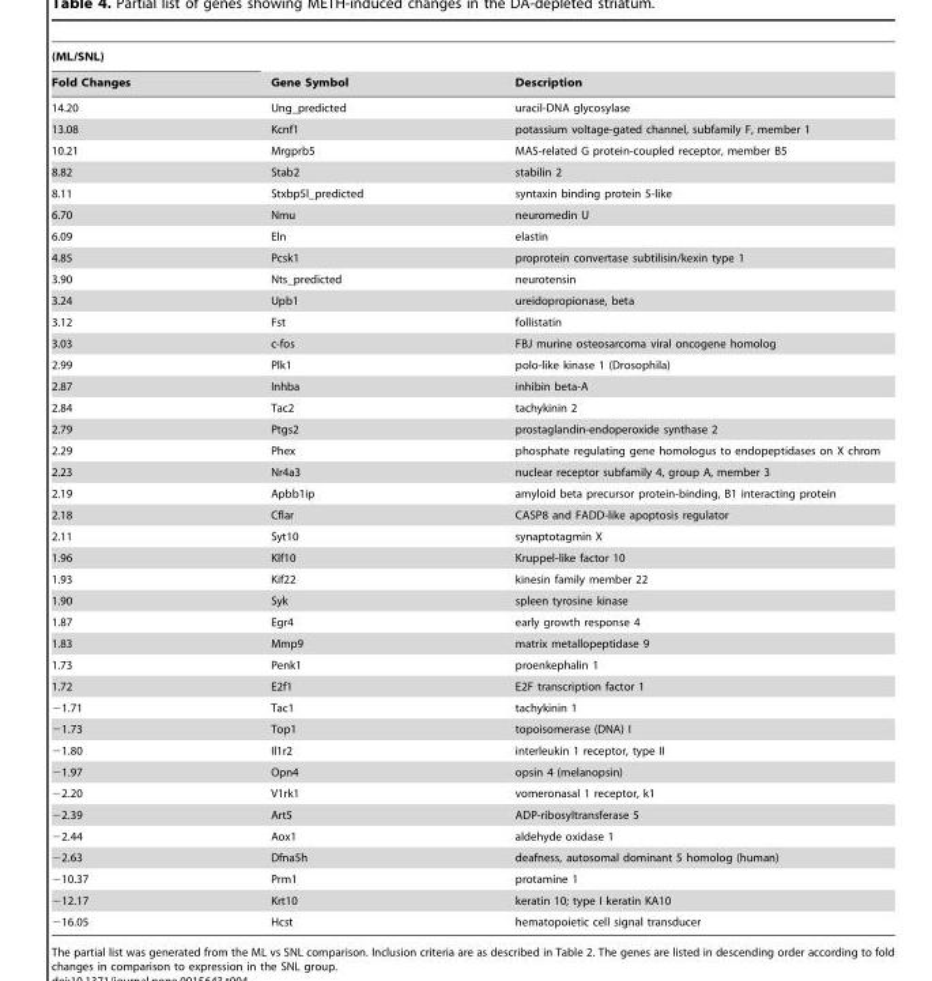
<table><thead><tr><td rowspan="2">(ML/SNL) Fold Changes</td><td rowspan="2">Gene Symbol</td><td rowspan="2">Description</td></tr><tr></tr></thead><tbody><tr><td>14.20</td><td>Ung_predicted</td><td>uracil-DNA glycosylase</td></tr><tr><td>13.08</td><td>Kcnf1</td><td>potassium voltage-gated channel, subfamily F, member 1</td></tr><tr><td>10.21</td><td>Mrgprb5</td><td>MAS-related G protein-coupled receptor, member B5</td></tr><tr><td>8.82</td><td>Stab2</td><td>stabilin 2</td></tr><tr><td>8.11</td><td>Stxbp5l_predicted</td><td>syntaxin binding protein 5-like</td></tr><tr><td>6.70</td><td>Nmu</td><td>neuromedin U</td></tr><tr><td>6.09</td><td>Eln</td><td>elastin</td></tr><tr><td>4.85</td><td>Pcsk1</td><td>proprotein convertase subtilisin/kexin type 1</td></tr><tr><td>3.90</td><td>Nts_predicted</td><td>neurotensin</td></tr><tr><td>3.24</td><td>Upb1</td><td>ureidopropionase, beta</td></tr><tr><td>3.12</td><td>Fst</td><td>follistatin</td></tr><tr><td>3.03</td><td>c-fos</td><td>FBJ murine osteosarcoma viral oncogene homolog</td></tr><tr><td>2.99</td><td>Plk1</td><td>polo-like kinase 1 (Drosophila)</td></tr><tr><td>2.87</td><td>Inhba</td><td>inhibin beta-A</td></tr><tr><td>2.84</td><td>Tac2</td><td>tachykinin 2</td></tr><tr><td>2.79</td><td>Ptgs2</td><td>prostaglandin-endoperoxide synthase 2</td></tr><tr><td>2.29</td><td>Phex</td><td>phosphate regulating gene homologus to endopeptidases on X chrom</td></tr><tr><td>2.23</td><td>Nr4a3</td><td>nuclear receptor subfamily 4, group A, member 3</td></tr><tr><td>2.19</td><td>Apbb1ip</td><td>amyloid beta precursor protein-binding, B1 interacting protein</td></tr><tr><td>2.18</td><td>Cflar</td><td>CASP8 and FADD-like apoptosis regulator</td></tr><tr><td>2.11</td><td>Syt10</td><td>synaptotagmin X</td></tr><tr><td>1.96</td><td>Klf10</td><td>Kruppel-like factor 10</td></tr><tr><td>1.93</td><td>Kif22</td><td>kinesin family member 22</td></tr><tr><td>1.90</td><td>Syk</td><td>spleen tyrosine kinase</td></tr><tr><td>1.87</td><td>Egr4</td><td>early growth response 4</td></tr><tr><td>1.83</td><td>Mmp9</td><td>matrix metallopeptidase 9</td></tr><tr><td>1.73</td><td>Penk1</td><td>proenkephalin 1</td></tr><tr><td>1.72</td><td>E2f1</td><td>E2F transcription factor 1</td></tr><tr><td>−1.71</td><td>Tac1</td><td>tachykinin 1</td></tr><tr><td>−1.73</td><td>Top1</td><td>topoisomerase (DNA) I</td></tr><tr><td>−1.80</td><td>Il1r2</td><td>interleukin 1 receptor, type II</td></tr><tr><td>−1.97</td><td>Opn4</td><td>opsin 4 (melanopsin)</td></tr><tr><td>−2.20</td><td>V1rk1</td><td>vomeronasal 1 receptor, k1</td></tr><tr><td>−2.39</td><td>Art5</td><td>ADP-ribosyltransferase 5</td></tr><tr><td>−2.44</td><td>Aox1</td><td>aldehyde oxidase 1</td></tr><tr><td>−2.63</td><td>Dfna5h</td><td>deafness, autosomal dominant 5 homolog (human)</td></tr><tr><td>−10.37</td><td>Prm1</td><td>protamine 1</td></tr><tr><td>−12.17</td><td>Krt10</td><td>keratin 10; type I keratin KA10</td></tr><tr><td>−16.05</td><td>Hcst</td><td>hematopoietic cell signal transducer</td></tr></tbody></table>